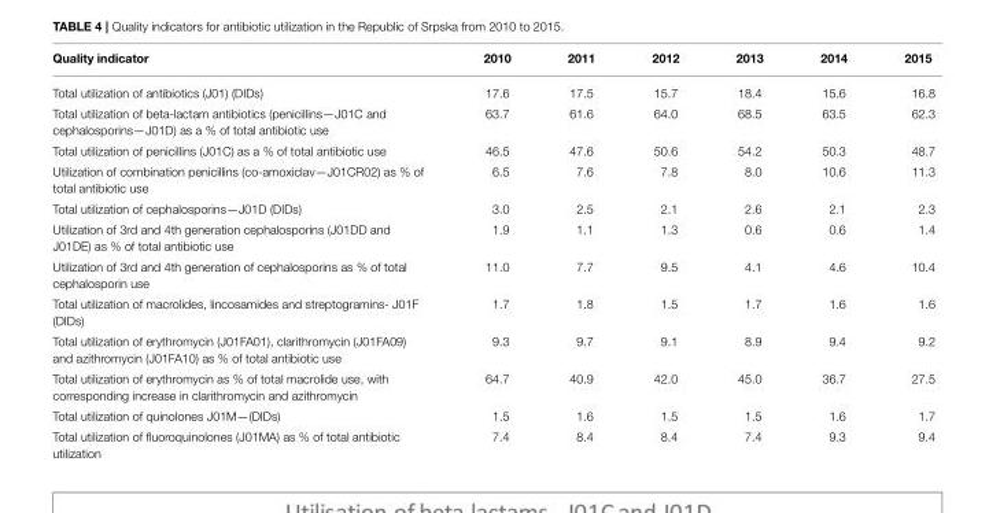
<table><thead><tr><td>Quality indicator</td><td>2010</td><td>2011</td><td>2012</td><td>2013</td><td>2014</td><td>2015</td></tr></thead><tbody><tr><td>Total utilization of antibiotics (J01) (DIDs)</td><td>17.6</td><td>17.5</td><td>15.7</td><td>18.4</td><td>15.6</td><td>16.8</td></tr><tr><td>Total utilization of beta-lactam antibiotics (penicillins—J01C and cephalosporins—J01D) as a % of total antibiotic use</td><td>63.7</td><td>61.6</td><td>64.0</td><td>68.5</td><td>63.5</td><td>62.3</td></tr><tr><td>Total utilization of penicillins (J01C) as a % of total antibiotic use</td><td>46.5</td><td>47.6</td><td>50.6</td><td>54.2</td><td>50.3</td><td>48.7</td></tr><tr><td>Utilization of combination penicillins (co-amoxiclav—J01CR02) as % of total antibiotic use</td><td>6.5</td><td>7.6</td><td>7.8</td><td>8.0</td><td>10.6</td><td>11.3</td></tr><tr><td>Total utilization of cephalosporins—J01D (DIDs)</td><td>3.0</td><td>2.5</td><td>2.1</td><td>2.6</td><td>2.1</td><td>2.3</td></tr><tr><td>Utilization of 3rd and 4th generation cephalosporins (J01DD and J01DE) as % of total antibiotic use</td><td>1.9</td><td>1.1</td><td>1.3</td><td>0.6</td><td>0.6</td><td>1.4</td></tr><tr><td>Utilization of 3rd and 4th generation of cephalosporins as % of total cephalosporin use</td><td>11.0</td><td>7.7</td><td>9.5</td><td>4.1</td><td>4.6</td><td>10.4</td></tr><tr><td>Total utilization of macrolides, lincosamides and streptogramins- J01F (DIDs)</td><td>1.7</td><td>1.8</td><td>1.5</td><td>1.7</td><td>1.6</td><td>1.6</td></tr><tr><td>Total utilization of erythromycin (J01FA01), clarithromycin (J01FA09) and azithromycin (J01FA10) as % of total antibiotic use</td><td>9.3</td><td>9.7</td><td>9.1</td><td>8.9</td><td>9.4</td><td>9.2</td></tr><tr><td>Total utilization of erythromycin as % of total macrolide use, with corresponding increase in clarithromycin and azithromycin</td><td>64.7</td><td>40.9</td><td>42.0</td><td>45.0</td><td>36.7</td><td>27.5</td></tr><tr><td>Total utilization of quinolones J01M—(DIDs)</td><td>1.5</td><td>1.6</td><td>1.5</td><td>1.5</td><td>1.6</td><td>1.7</td></tr><tr><td>Total utilization of fluoroquinolones (J01MA) as % of total antibiotic utilization</td><td>7.4</td><td>8.4</td><td>8.4</td><td>7.4</td><td>9.3</td><td>9.4</td></tr></tbody></table>